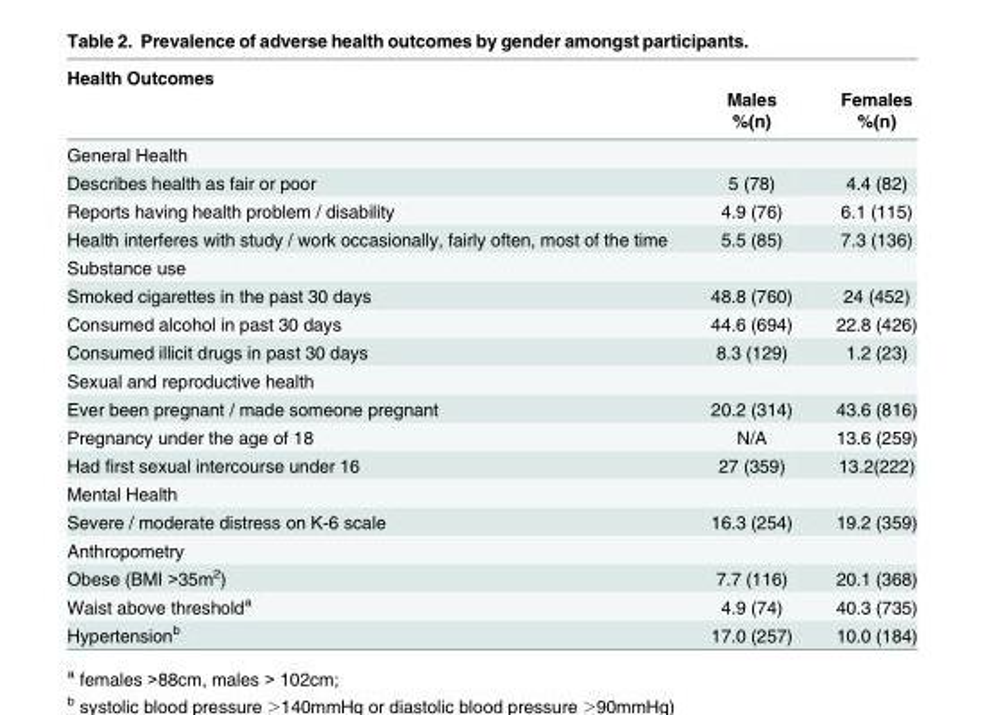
<table><thead><tr><td rowspan="3">Health Outcomes</td><td rowspan="3">Males %(n)</td><td rowspan="3">Females %(n)</td></tr><tr></tr><tr></tr></thead><tbody><tr><td colspan="3">General Health</td></tr><tr><td>Describes health as fair or poor</td><td>5 (78)</td><td>4.4 (82)</td></tr><tr><td>Reports having health problem / disability</td><td>4.9 (76)</td><td>6.1 (115)</td></tr><tr><td>Health interferes with study / work occasionally, fairly often, most of the time</td><td>5.5 (85)</td><td>7.3 (136)</td></tr><tr><td colspan="3">Substance use</td></tr><tr><td>Smoked cigarettes in the past 30 days</td><td>48.8 (760)</td><td>24 (452)</td></tr><tr><td>Consumed alcohol in past 30 days</td><td>44.6 (694)</td><td>22.8 (426)</td></tr><tr><td>Consumed illicit drugs in past 30 days</td><td>8.3 (129)</td><td>1.2 (23)</td></tr><tr><td colspan="3">Sexual and reproductive health</td></tr><tr><td>Ever been pregnant / made someone pregnant</td><td>20.2 (314)</td><td>43.6 (816)</td></tr><tr><td>Pregnancy under the age of 18</td><td>N/A</td><td>13.6 (259)</td></tr><tr><td>Had first sexual intercourse under 16</td><td>27 (359)</td><td>13.2(222)</td></tr><tr><td colspan="3">Mental Health</td></tr><tr><td>Severe / moderate distress on K-6 scale</td><td>16.3 (254)</td><td>19.2 (359)</td></tr><tr><td colspan="3">Anthropometry</td></tr><tr><td>Obese (BMI &gt;35m<sup>2</sup>)</td><td>7.7 (116)</td><td>20.1 (368)</td></tr><tr><td>Waist above threshold<sup>a</sup></td><td>4.9 (74)</td><td>40.3 (735)</td></tr><tr><td>Hypertension<sup>b</sup></td><td>17.0 (257)</td><td>10.0 (184)</td></tr></tbody></table>